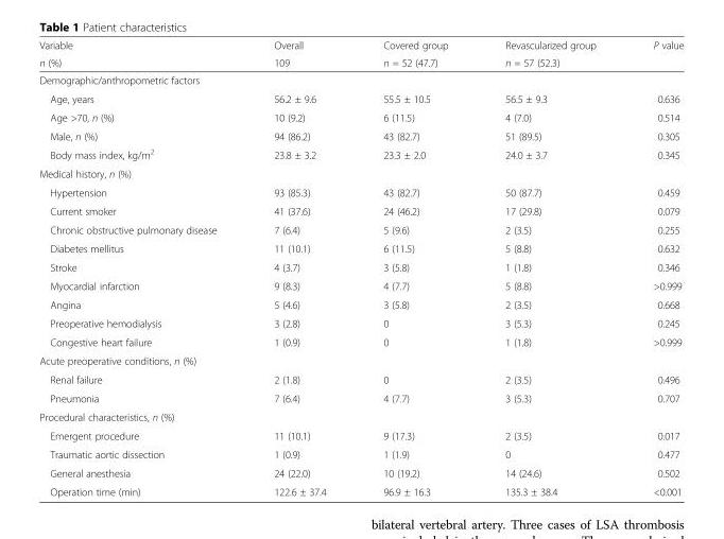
<table><thead><tr><td rowspan="2">Variable n (%)</td><td rowspan="2">Overall 109</td><td rowspan="2">Covered group n = 52 (47.7)</td><td rowspan="2">Revascularized group n = 57 (52.3)</td><td rowspan="2">P value</td></tr><tr></tr></thead><tbody><tr><td colspan="5">Demographic/anthropometric factors</td></tr><tr><td>Age, years</td><td>56.2 ± 9.6</td><td>55.5 ± 10.5</td><td>56.5 ± 9.3</td><td>0.636</td></tr><tr><td>Age &gt;70, n (%)</td><td>10 (9.2)</td><td>6 (11.5)</td><td>4 (7.0)</td><td>0.514</td></tr><tr><td>Male, n (%)</td><td>94 (86.2)</td><td>43 (82.7)</td><td>51 (89.5)</td><td>0.305</td></tr><tr><td>Body mass index, kg/m<sup>2</sup></td><td>23.8 ± 3.2</td><td>23.3 ± 2.0</td><td>24.0 ± 3.7</td><td>0.345</td></tr><tr><td colspan="5">Medical history, n (%)</td></tr><tr><td>Hypertension</td><td>93 (85.3)</td><td>43 (82.7)</td><td>50 (87.7)</td><td>0.459</td></tr><tr><td>Current smoker</td><td>41 (37.6)</td><td>24 (46.2)</td><td>17 (29.8)</td><td>0.079</td></tr><tr><td>Chronic obstructive pulmonary disease</td><td>7 (6.4)</td><td>5 (9.6)</td><td>2 (3.5)</td><td>0.255</td></tr><tr><td>Diabetes mellitus</td><td>11 (10.1)</td><td>6 (11.5)</td><td>5 (8.8)</td><td>0.632</td></tr><tr><td>Stroke</td><td>4 (3.7)</td><td>3 (5.8)</td><td>1 (1.8)</td><td>0.346</td></tr><tr><td>Myocardial infarction</td><td>9 (8.3)</td><td>4 (7.7)</td><td>5 (8.8)</td><td>&gt;0.999</td></tr><tr><td>Angina</td><td>5 (4.6)</td><td>3 (5.8)</td><td>2 (3.5)</td><td>0.668</td></tr><tr><td>Preoperative hemodialysis</td><td>3 (2.8)</td><td>0</td><td>3 (5.3)</td><td>0.245</td></tr><tr><td>Congestive heart failure</td><td>1 (0.9)</td><td>0</td><td>1 (1.8)</td><td>&gt;0.999</td></tr><tr><td colspan="5">Acute preoperative conditions, n (%)</td></tr><tr><td>Renal failure</td><td>2 (1.8)</td><td>0</td><td>2 (3.5)</td><td>0.496</td></tr><tr><td>Pneumonia</td><td>7 (6.4)</td><td>4 (7.7)</td><td>3 (5.3)</td><td>0.707</td></tr><tr><td colspan="5">Procedural characteristics, n (%)</td></tr><tr><td>Emergent procedure</td><td>11 (10.1)</td><td>9 (17.3)</td><td>2 (3.5)</td><td>0.017</td></tr><tr><td>Traumatic aortic dissection</td><td>1 (0.9)</td><td>1 (1.9)</td><td>0</td><td>0.477</td></tr><tr><td>General anesthesia</td><td>24 (22.0)</td><td>10 (19.2)</td><td>14 (24.6)</td><td>0.502</td></tr><tr><td>Operation time (min)</td><td>122.6 ± 37.4</td><td>96.9 ± 16.3</td><td>135.3 ± 38.4</td><td>&lt;0.001</td></tr></tbody></table>